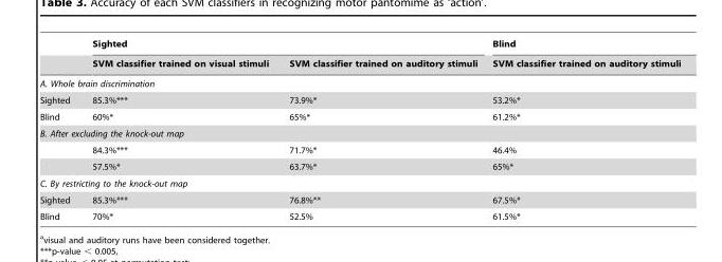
<table><thead><tr><td rowspan="2"></td><td colspan="2">Sighted</td><td rowspan="2">Blind SVM classifier trained on auditory stimuli</td></tr><tr><td>SVM classifier trained on visual stimuli</td><td>SVM classifier trained on auditory stimuli</td></tr></thead><tbody><tr><td colspan="4">A. Whole brain discrimination</td></tr><tr><td>Sighted</td><td>85.3%***</td><td>73.9%*</td><td>53.2%*</td></tr><tr><td>Blind</td><td>60%*</td><td>65%*</td><td>61.2%*</td></tr><tr><td colspan="4">B. After excluding the knock-out map</td></tr><tr><td></td><td>84.3%***</td><td>71.7%*</td><td>46.4%</td></tr><tr><td></td><td>57.5%*</td><td>63.7%*</td><td>65%*</td></tr><tr><td colspan="4">C. By restricting to the knock-out map</td></tr><tr><td>Sighted</td><td>85.3%***</td><td>76.8%**</td><td>67.5%*</td></tr><tr><td>Blind</td><td>70%*</td><td>52.5%</td><td>61.5%*</td></tr></tbody></table>